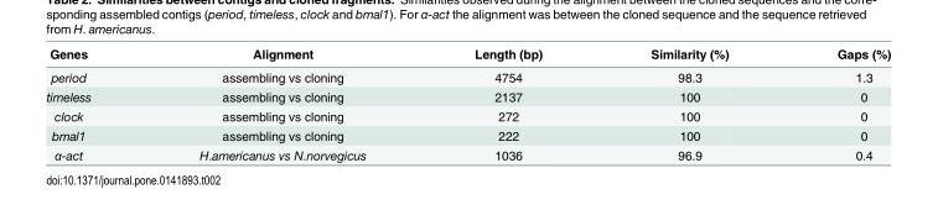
<table><thead><tr><td>Genes</td><td>Alignment</td><td>Length (bp)</td><td>Similarity (%)</td><td>Gaps (%)</td></tr></thead><tbody><tr><td>period</td><td>assembling vs cloning</td><td>4754</td><td>98.3</td><td>1.3</td></tr><tr><td>timeless</td><td>assembling vs cloning</td><td>2137</td><td>100</td><td>0</td></tr><tr><td>clock</td><td>assembling vs cloning</td><td>272</td><td>100</td><td>0</td></tr><tr><td>bmal1</td><td>assembling vs cloning</td><td>222</td><td>100</td><td>0</td></tr><tr><td>α-act</td><td>H.americanus vs N.norvegicus</td><td>1036</td><td>96.9</td><td>0.4</td></tr></tbody></table>